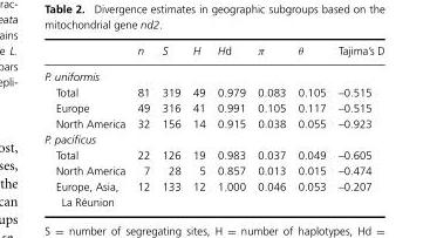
<table><thead><tr><td></td><td>n</td><td>S</td><td>H</td><td>Hd</td><td>π</td><td>θ</td><td>Tajima’s D</td></tr></thead><tbody><tr><td colspan="8">P. uniformis</td></tr><tr><td>Total</td><td>81</td><td>319</td><td>49</td><td>0.979</td><td>0.083</td><td>0.105</td><td>–0.515</td></tr><tr><td>Europe</td><td>49</td><td>316</td><td>41</td><td>0.991</td><td>0.105</td><td>0.117</td><td>–0.515</td></tr><tr><td>North America</td><td>32</td><td>156</td><td>14</td><td>0.915</td><td>0.038</td><td>0.055</td><td>–0.923</td></tr><tr><td colspan="8">P. pacificus</td></tr><tr><td>Total</td><td>22</td><td>126</td><td>19</td><td>0.983</td><td>0.037</td><td>0.049</td><td>–0.605</td></tr><tr><td>North America</td><td>7</td><td>28</td><td>5</td><td>0.857</td><td>0.013</td><td>0.015</td><td>–0.474</td></tr><tr><td>Europe, Asia,</td><td>12</td><td>133</td><td>12</td><td>1.000</td><td>0.046</td><td>0.053</td><td>–0.207</td></tr></tbody></table>